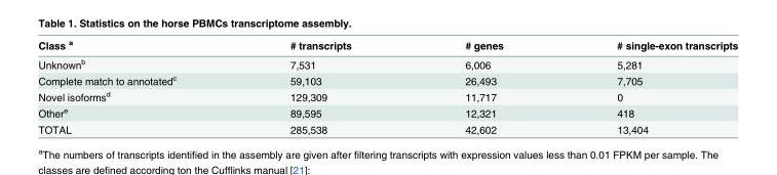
<table><thead><tr><td>Class <sup>a</sup></td><td># transcripts</td><td># genes</td><td># single-exon transcripts</td></tr></thead><tbody><tr><td>Unknown<sup>b</sup></td><td>7,531</td><td>6,006</td><td>5,281</td></tr><tr><td>Complete match to annotated<sup>c</sup></td><td>59,103</td><td>26,493</td><td>7,705</td></tr><tr><td>Novel isoforms<sup>d</sup></td><td>129,309</td><td>11,717</td><td>0</td></tr><tr><td>Other<sup>e</sup></td><td>89,595</td><td>12,321</td><td>418</td></tr><tr><td>TOTAL</td><td>285,538</td><td>42,602</td><td>13,404</td></tr></tbody></table>